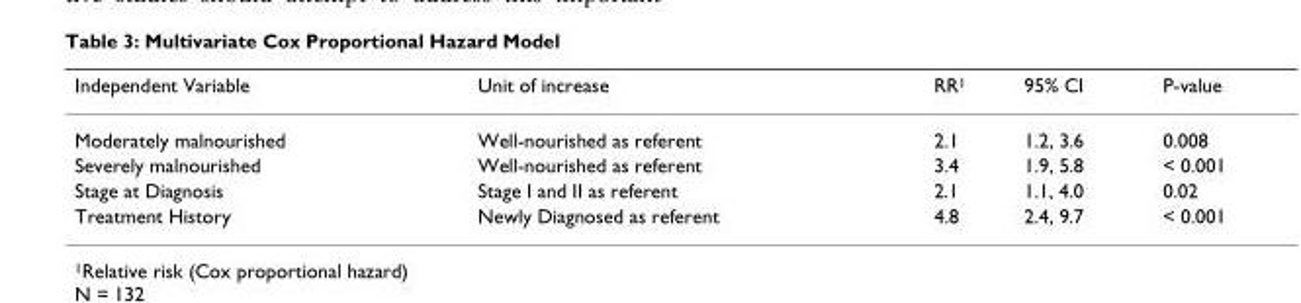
<table><thead><tr><td>Independent Variable</td><td>Unit of increase</td><td>RR<sup>1</sup></td><td>95% CI</td><td>P-value</td></tr></thead><tbody><tr><td>Moderately malnourished</td><td>Well-nourished as referent</td><td>2.1</td><td>1.2, 3.6</td><td>0.008</td></tr><tr><td>Severely malnourished</td><td>Well-nourished as referent</td><td>3.4</td><td>1.9, 5.8</td><td>&lt; 0.001</td></tr><tr><td>Stage at Diagnosis</td><td>Stage I and II as referent</td><td>2.1</td><td>1.1, 4.0</td><td>0.02</td></tr><tr><td>Treatment History</td><td>Newly Diagnosed as referent</td><td>4.8</td><td>2.4, 9.7</td><td>&lt; 0.001</td></tr></tbody></table>